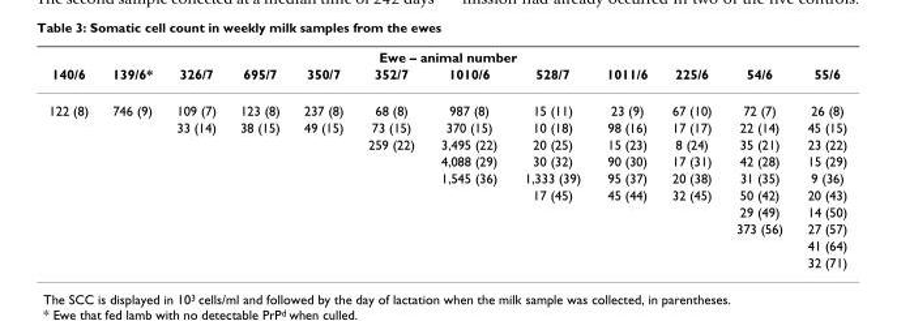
<table><thead><tr><td colspan="12">Ewe – animal number</td></tr><tr><td>140/6</td><td>139/6*</td><td>326/7</td><td>695/7</td><td>350/7</td><td>352/7</td><td>1010/6</td><td>528/7</td><td>1011/6</td><td>225/6</td><td>54/6</td><td>55/6</td></tr></thead><tbody><tr><td rowspan="10">122 (8)</td><td>746 (9)</td><td>109 (7)</td><td>123 (8)</td><td>237 (8)</td><td>68 (8)</td><td>987 (8)</td><td>15 (11)</td><td>23 (9)</td><td>67 (10)</td><td>72 (7)</td><td>26 (8)</td></tr><tr><td></td><td>33 (14)</td><td>38 (15)</td><td>49 (15)</td><td>73 (15)</td><td>370 (15)</td><td>10 (18)</td><td>98 (16)</td><td>17 (17)</td><td>22 (14)</td><td>45 (15)</td></tr><tr><td></td><td></td><td></td><td></td><td>259 (22)</td><td>3,495 (22)</td><td>20 (25)</td><td>15 (23)</td><td>8 (24)</td><td>35 (21)</td><td>23 (22)</td></tr><tr><td></td><td></td><td></td><td></td><td></td><td>4,088 (29)</td><td>30 (32)</td><td>90 (30)</td><td>17 (31)</td><td>42 (28)</td><td>15 (29)</td></tr><tr><td></td><td></td><td></td><td></td><td></td><td>1,545 (36)</td><td>1,333 (39)</td><td>95 (37)</td><td>20 (38)</td><td>31 (35)</td><td>9 (36)</td></tr><tr><td></td><td></td><td></td><td></td><td></td><td></td><td>17 (45)</td><td>45 (44)</td><td>32 (45)</td><td>50 (42)</td><td>20 (43)</td></tr><tr><td></td><td></td><td></td><td></td><td></td><td></td><td></td><td></td><td></td><td>29 (49)</td><td>14 (50)</td></tr><tr><td></td><td></td><td></td><td></td><td></td><td></td><td></td><td></td><td></td><td>373 (56)</td><td>27 (57)</td></tr><tr><td></td><td></td><td></td><td></td><td></td><td></td><td></td><td></td><td></td><td></td><td>41 (64)</td></tr><tr><td></td><td></td><td></td><td></td><td></td><td></td><td></td><td></td><td></td><td></td><td>32 (71)</td></tr></tbody></table>